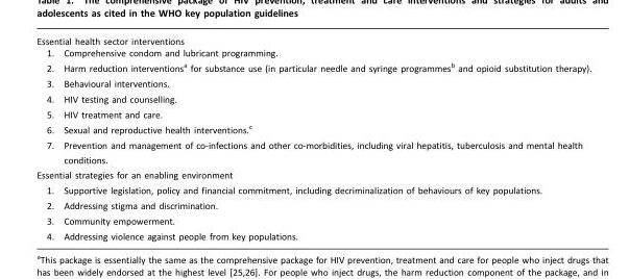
<table><tbody><tr><td colspan="2">Essential health sector interventions</td></tr><tr><td>1.</td><td>Comprehensive condom and lubricant programming.</td></tr><tr><td>2.</td><td>Harm reduction interventions<sup>a</sup> for substance use (in particular needle and syringe programmes<sup>b</sup> and opioid substitution therapy).</td></tr><tr><td>3.</td><td>Behavioural interventions.</td></tr><tr><td>4.</td><td>HIV testing and counselling.</td></tr><tr><td>5.</td><td>HIV treatment and care.</td></tr><tr><td>6.</td><td>Sexual and reproductive health interventions.<sup>c</sup></td></tr><tr><td>7.</td><td>Prevention and management of co-infections and other co-morbidities, including viral hepatitis, tuberculosis and mental health conditions.</td></tr><tr><td colspan="2">Essential strategies for an enabling environment</td></tr><tr><td>1.</td><td>Supportive legislation, policy and financial commitment, including decriminalization of behaviours of key populations.</td></tr><tr><td>2.</td><td>Addressing stigma and discrimination.</td></tr><tr><td>3.</td><td>Community empowerment.</td></tr><tr><td>4.</td><td>Addressing violence against people from key populations.</td></tr></tbody></table>